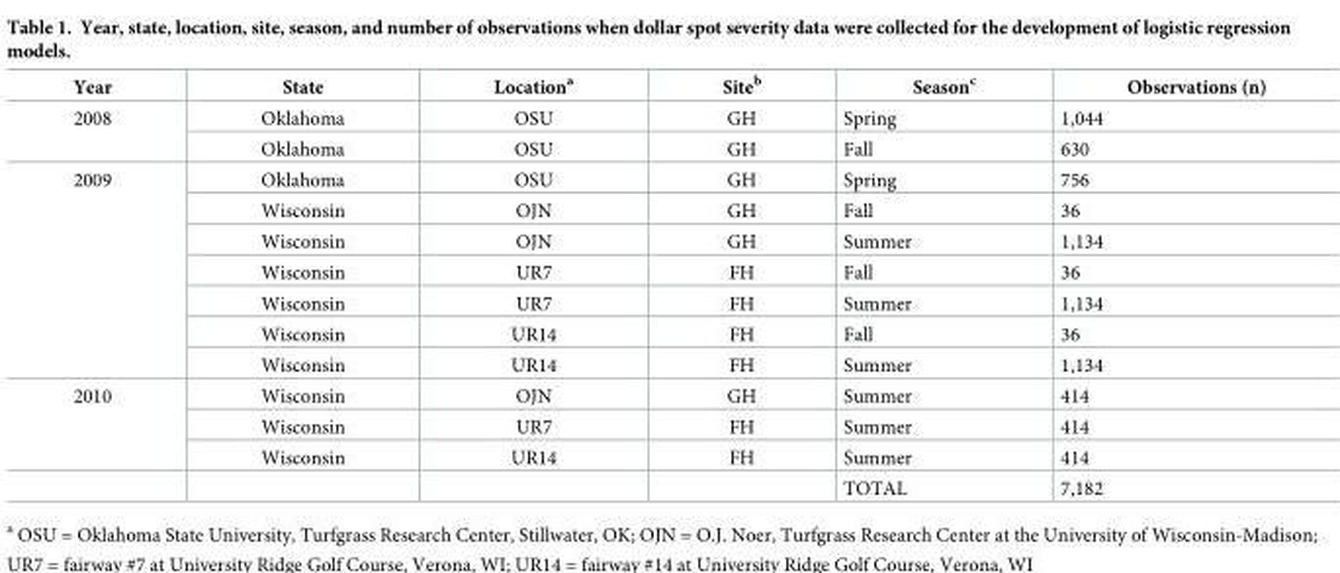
<table><thead><tr><td>Year</td><td>State</td><td>Location<sup>a</sup></td><td>Site<sup>b</sup></td><td>Season<sup>c</sup></td><td>Observations (n)</td></tr></thead><tbody><tr><td rowspan="2">2008</td><td>Oklahoma</td><td>OSU</td><td>GH</td><td>Spring</td><td>1,044</td></tr><tr><td>Oklahoma</td><td>OSU</td><td>GH</td><td>Fall</td><td>630</td></tr><tr><td rowspan="7">2009</td><td>Oklahoma</td><td>OSU</td><td>GH</td><td>Spring</td><td>756</td></tr><tr><td>Wisconsin</td><td>OJN</td><td>GH</td><td>Fall</td><td>36</td></tr><tr><td>Wisconsin</td><td>OJN</td><td>GH</td><td>Summer</td><td>1,134</td></tr><tr><td>Wisconsin</td><td>UR7</td><td>FH</td><td>Fall</td><td>36</td></tr><tr><td>Wisconsin</td><td>UR7</td><td>FH</td><td>Summer</td><td>1,134</td></tr><tr><td>Wisconsin</td><td>UR14</td><td>FH</td><td>Fall</td><td>36</td></tr><tr><td>Wisconsin</td><td>UR14</td><td>FH</td><td>Summer</td><td>1,134</td></tr><tr><td rowspan="4">2010</td><td>Wisconsin</td><td>OJN</td><td>GH</td><td>Summer</td><td>414</td></tr><tr><td>Wisconsin</td><td>UR7</td><td>FH</td><td>Summer</td><td>414</td></tr><tr><td>Wisconsin</td><td>UR14</td><td>FH</td><td>Summer</td><td>414</td></tr><tr><td></td><td></td><td></td><td>TOTAL</td><td>7,182</td></tr></tbody></table>